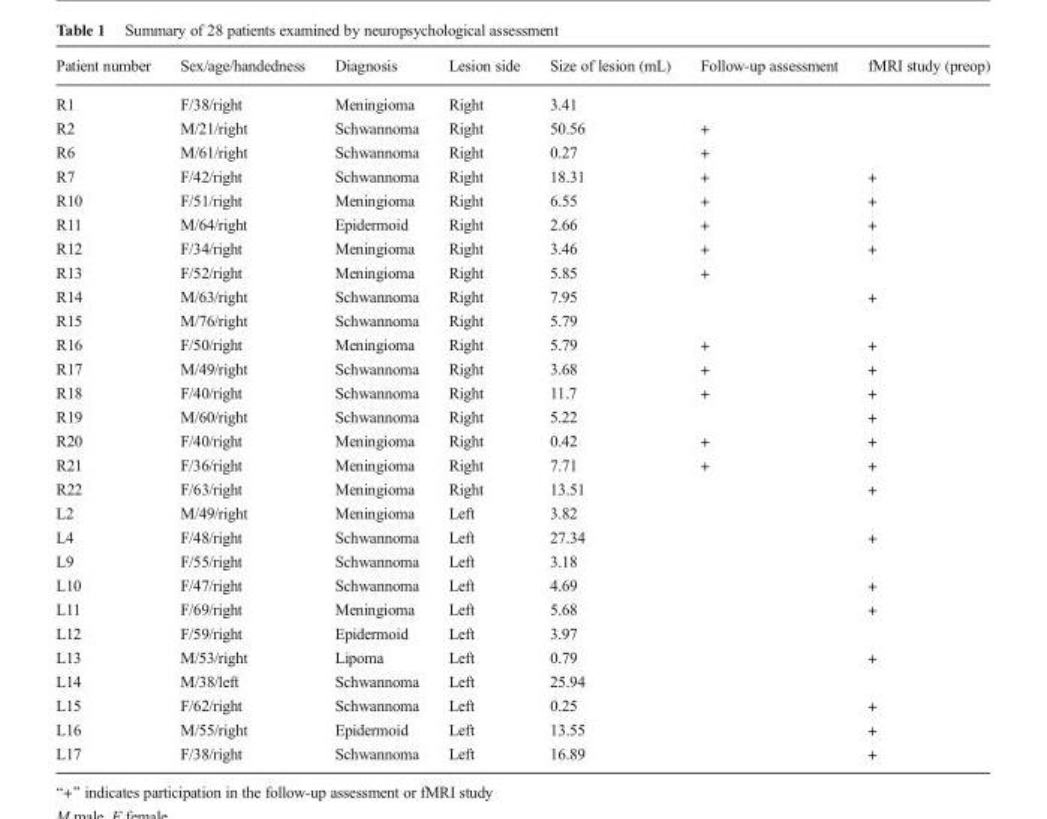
<table><thead><tr><td>Patient number</td><td>Sex/age/handedness</td><td>Diagnosis</td><td>Lesion side</td><td>Size of lesion (mL)</td><td>Follow-up assessment</td><td>fMRI study (preop)</td></tr></thead><tbody><tr><td>R1</td><td>F/38/right</td><td>Meningioma</td><td>Right</td><td>3.41</td><td></td><td></td></tr><tr><td>R2</td><td>M/21/right</td><td>Schwannoma</td><td>Right</td><td>50.56</td><td>+</td><td></td></tr><tr><td>R6</td><td>M/61/right</td><td>Schwannoma</td><td>Right</td><td>0.27</td><td>+</td><td></td></tr><tr><td>R7</td><td>F/42/right</td><td>Schwannoma</td><td>Right</td><td>18.31</td><td>+</td><td>+</td></tr><tr><td>R10</td><td>F/51/right</td><td>Meningioma</td><td>Right</td><td>6.55</td><td>+</td><td>+</td></tr><tr><td>R11</td><td>M/64/right</td><td>Epidermoid</td><td>Right</td><td>2.66</td><td>+</td><td>+</td></tr><tr><td>R12</td><td>F/34/right</td><td>Meningioma</td><td>Right</td><td>3.46</td><td>+</td><td>+</td></tr><tr><td>R13</td><td>F/52/right</td><td>Meningioma</td><td>Right</td><td>5.85</td><td>+</td><td></td></tr><tr><td>R14</td><td>M/63/right</td><td>Schwannoma</td><td>Right</td><td>7.95</td><td></td><td>+</td></tr><tr><td>R15</td><td>M/76/right</td><td>Schwannoma</td><td>Right</td><td>5.79</td><td></td><td></td></tr><tr><td>R16</td><td>F/50/right</td><td>Meningioma</td><td>Right</td><td>5.79</td><td>+</td><td>+</td></tr><tr><td>R17</td><td>M/49/right</td><td>Schwannoma</td><td>Right</td><td>3.68</td><td>+</td><td>+</td></tr><tr><td>R18</td><td>F/40/right</td><td>Schwannoma</td><td>Right</td><td>11.7</td><td>+</td><td>+</td></tr><tr><td>R19</td><td>M/60/right</td><td>Schwannoma</td><td>Right</td><td>5.22</td><td></td><td>+</td></tr><tr><td>R20</td><td>F/40/right</td><td>Meningioma</td><td>Right</td><td>0.42</td><td>+</td><td>+</td></tr><tr><td>R21</td><td>F/36/right</td><td>Meningioma</td><td>Right</td><td>7.71</td><td>+</td><td>+</td></tr><tr><td>R22</td><td>F/63/right</td><td>Meningioma</td><td>Right</td><td>13.51</td><td></td><td>+</td></tr><tr><td>L2</td><td>M/49/right</td><td>Meningioma</td><td>Left</td><td>3.82</td><td></td><td></td></tr><tr><td>L4</td><td>F/48/right</td><td>Schwannoma</td><td>Left</td><td>27.34</td><td></td><td>+</td></tr><tr><td>L9</td><td>F/55/right</td><td>Schwannoma</td><td>Left</td><td>3.18</td><td></td><td></td></tr><tr><td>L10</td><td>F/47/right</td><td>Schwannoma</td><td>Left</td><td>4.69</td><td></td><td>+</td></tr><tr><td>L11</td><td>F/69/right</td><td>Meningioma</td><td>Left</td><td>5.68</td><td></td><td>+</td></tr><tr><td>L12</td><td>F/59/right</td><td>Epidermoid</td><td>Left</td><td>3.97</td><td></td><td></td></tr><tr><td>L13</td><td>M/53/right</td><td>Lipoma</td><td>Left</td><td>0.79</td><td></td><td>+</td></tr><tr><td>L14</td><td>M/38/left</td><td>Schwannoma</td><td>Left</td><td>25.94</td><td></td><td></td></tr><tr><td>L15</td><td>F/62/right</td><td>Schwannoma</td><td>Left</td><td>0.25</td><td></td><td>+</td></tr><tr><td>L16</td><td>M/55/right</td><td>Epidermoid</td><td>Left</td><td>13.55</td><td></td><td>+</td></tr><tr><td>L17</td><td>F/38/right</td><td>Schwannoma</td><td>Left</td><td>16.89</td><td></td><td>+</td></tr></tbody></table>